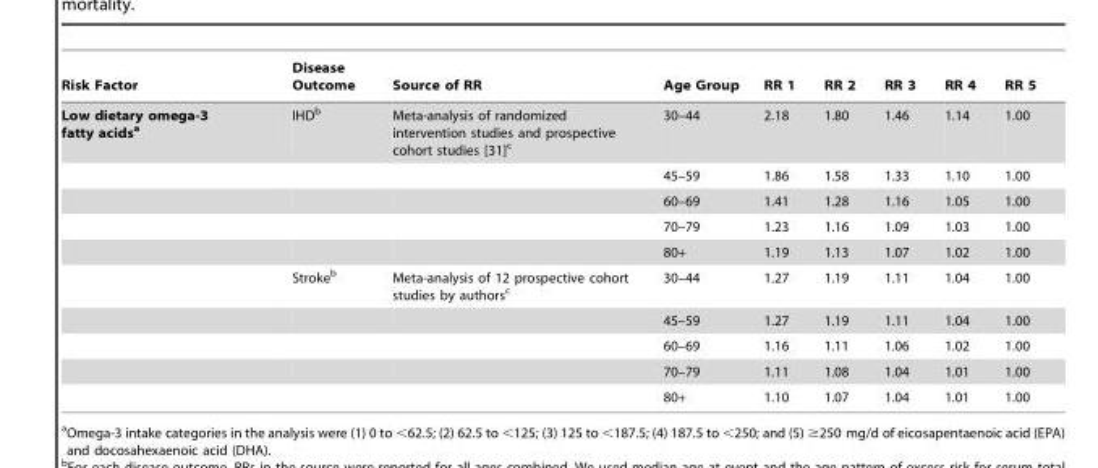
<table><thead><tr><td>Risk Factor</td><td>Disease Outcome</td><td>Source of RR</td><td>Age Group</td><td>RR 1</td><td>RR 2</td><td>RR 3</td><td>RR 4</td><td>RR 5</td></tr></thead><tbody><tr><td rowspan="10">Low dietary omega-3 fatty acidsa</td><td>IHD<sup>b</sup></td><td>Meta-analysis of randomized intervention studies and prospective cohort studies [31]c</td><td>30–44</td><td>2.18</td><td>1.80</td><td>1.46</td><td>1.14</td><td>1.00</td></tr><tr><td></td><td></td><td>45–59</td><td>1.86</td><td>1.58</td><td>1.33</td><td>1.10</td><td>1.00</td></tr><tr><td></td><td></td><td>60–69</td><td>1.41</td><td>1.28</td><td>1.16</td><td>1.05</td><td>1.00</td></tr><tr><td></td><td></td><td>70–79</td><td>1.23</td><td>1.16</td><td>1.09</td><td>1.03</td><td>1.00</td></tr><tr><td></td><td></td><td>80+</td><td>1.19</td><td>1.13</td><td>1.07</td><td>1.02</td><td>1.00</td></tr><tr><td>Stroke<sup>b</sup></td><td>Meta-analysis of 12 prospective cohort studies by authors<sup>c</sup></td><td>30–44</td><td>1.27</td><td>1.19</td><td>1.11</td><td>1.04</td><td>1.00</td></tr><tr><td></td><td></td><td>45–59</td><td>1.27</td><td>1.19</td><td>1.11</td><td>1.04</td><td>1.00</td></tr><tr><td></td><td></td><td>60–69</td><td>1.16</td><td>1.11</td><td>1.06</td><td>1.02</td><td>1.00</td></tr><tr><td></td><td></td><td>70–79</td><td>1.11</td><td>1.08</td><td>1.04</td><td>1.01</td><td>1.00</td></tr><tr><td></td><td></td><td>80+</td><td>1.10</td><td>1.07</td><td>1.04</td><td>1.01</td><td>1.00</td></tr></tbody></table>